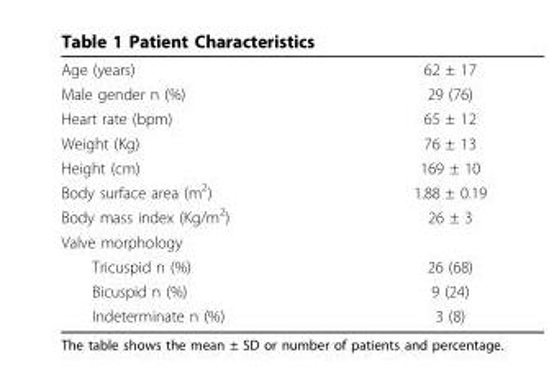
<table><tbody><tr><td>Age (years)</td><td>62 ± 17</td></tr><tr><td>Male gender n (%)</td><td>29 (76)</td></tr><tr><td>Heart rate (bpm)</td><td>65 ± 12</td></tr><tr><td>Weight (Kg)</td><td>76 ± 13</td></tr><tr><td>Height (cm)</td><td>169 ± 10</td></tr><tr><td>Body surface area (m<sup>2</sup>)</td><td>1.88 ± 0.19</td></tr><tr><td>Body mass index (Kg/m<sup>2</sup>)</td><td>26 ± 3</td></tr><tr><td colspan="2">Valve morphology</td></tr><tr><td>Tricuspid n (%)</td><td>26 (68)</td></tr><tr><td>Bicuspid n (%)</td><td>9 (24)</td></tr><tr><td>Indeterminate n (%)</td><td>3 (8)</td></tr></tbody></table>